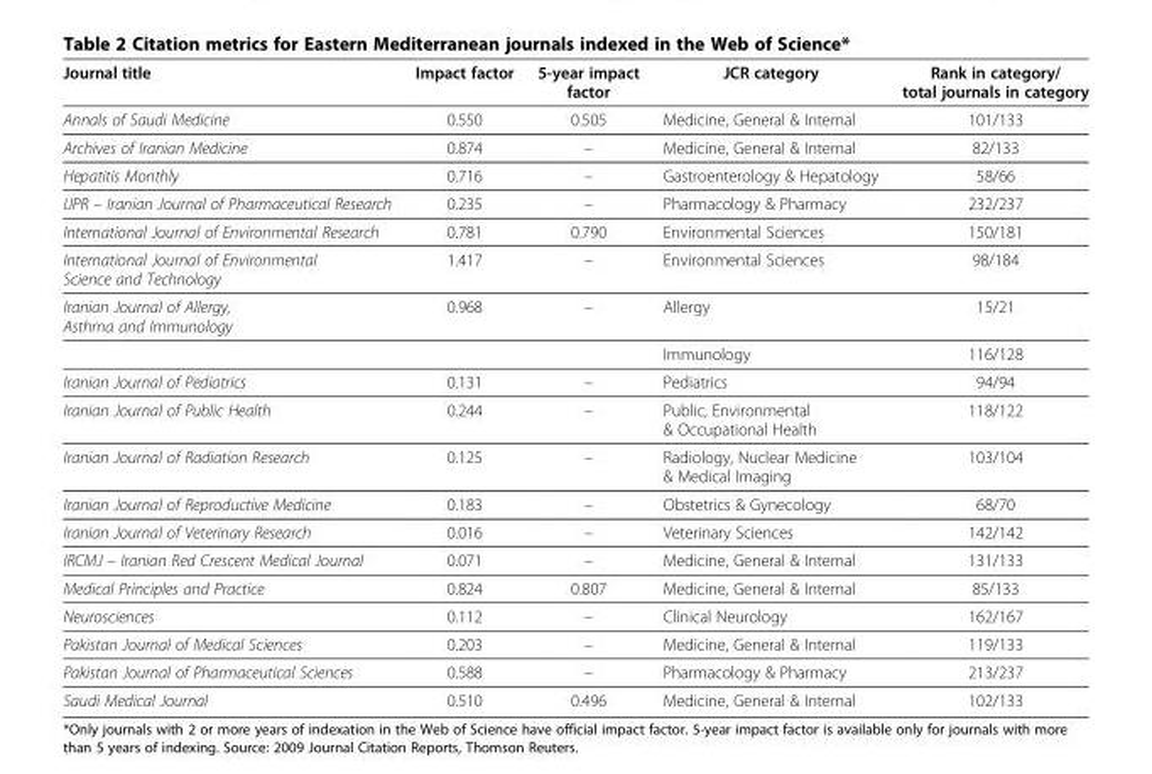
<table><thead><tr><td>Journal title</td><td>Impact factor</td><td>5-year impact factor</td><td>JCR category</td><td>Rank in category/ total journals in category</td></tr></thead><tbody><tr><td>Annals of Saudi Medicine</td><td>0.550</td><td>0.505</td><td>Medicine, General &amp; Internal</td><td>101/133</td></tr><tr><td>Archives of Iranian Medicine</td><td>0.874</td><td>–</td><td>Medicine, General &amp; Internal</td><td>82/133</td></tr><tr><td>Hepatitis Monthly</td><td>0.716</td><td>–</td><td>Gastroenterology &amp; Hepatology</td><td>58/66</td></tr><tr><td>IJPR – Iranian Journal of Pharmaceutical Research</td><td>0.235</td><td>–</td><td>Pharmacology &amp; Pharmacy</td><td>232/237</td></tr><tr><td>International Journal of Environmental Research</td><td>0.781</td><td>0.790</td><td>Environmental Sciences</td><td>150/181</td></tr><tr><td>International Journal of Environmental Science and Technology</td><td>1.417</td><td>–</td><td>Environmental Sciences</td><td>98/184</td></tr><tr><td rowspan="2">Iranian Journal of Allergy, Asthma and Immunology</td><td>0.968</td><td>–</td><td>Allergy</td><td>15/21</td></tr><tr><td></td><td></td><td>Immunology</td><td>116/128</td></tr><tr><td>Iranian Journal of Pediatrics</td><td>0.131</td><td>–</td><td>Pediatrics</td><td>94/94</td></tr><tr><td>Iranian Journal of Public Health</td><td>0.244</td><td>–</td><td>Public, Environmental &amp; Occupational Health</td><td>118/122</td></tr><tr><td>Iranian Journal of Radiation Research</td><td>0.125</td><td>–</td><td>Radiology, Nuclear Medicine &amp; Medical Imaging</td><td>103/104</td></tr><tr><td>Iranian Journal of Reproductive Medicine</td><td>0.183</td><td>–</td><td>Obstetrics &amp; Gynecology</td><td>68/70</td></tr><tr><td>Iranian Journal of Veterinary Research</td><td>0.016</td><td>–</td><td>Veterinary Sciences</td><td>142/142</td></tr><tr><td>IRCMJ – Iranian Red Crescent Medical Journal</td><td>0.071</td><td>–</td><td>Medicine, General &amp; Internal</td><td>131/133</td></tr><tr><td>Medical Principles and Practice</td><td>0.824</td><td>0.807</td><td>Medicine, General &amp; Internal</td><td>85/133</td></tr><tr><td>Neurosciences</td><td>0.112</td><td>–</td><td>Clinical Neurology</td><td>162/167</td></tr><tr><td>Pakistan Journal of Medical Sciences</td><td>0.203</td><td>–</td><td>Medicine, General &amp; Internal</td><td>119/133</td></tr><tr><td>Pakistan Journal of Pharmaceutical Sciences</td><td>0.588</td><td>–</td><td>Pharmacology &amp; Pharmacy</td><td>213/237</td></tr><tr><td>Saudi Medical Journal</td><td>0.510</td><td>0.496</td><td>Medicine, General &amp; Internal</td><td>102/133</td></tr></tbody></table>